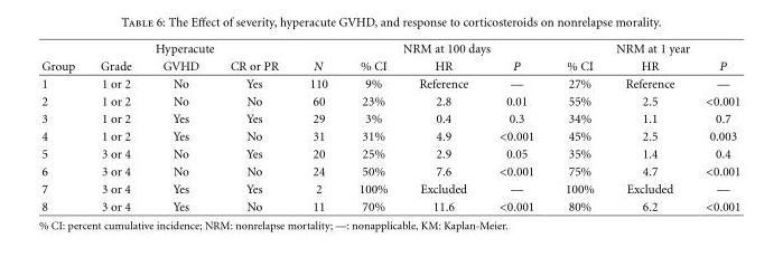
<table><thead><tr><td colspan="5">Hyperacute</td><td colspan="3">NRM at 100 days</td><td colspan="3">NRM at 1 year</td></tr><tr><td>Group</td><td>Grade</td><td>GVHD</td><td>CR or PR</td><td>N</td><td>% CI</td><td>HR</td><td>P</td><td>% CI</td><td>HR</td><td>P</td></tr></thead><tbody><tr><td>1</td><td>1 or 2</td><td>No</td><td>Yes</td><td>110</td><td>9%</td><td>Reference</td><td>—</td><td>27%</td><td>Reference</td><td>—</td></tr><tr><td>2</td><td>1 or 2</td><td>No</td><td>No</td><td>60</td><td>23%</td><td>2.8</td><td>0.01</td><td>55%</td><td>2.5</td><td>&lt;0.001</td></tr><tr><td>3</td><td>1 or 2</td><td>Yes</td><td>Yes</td><td>29</td><td>3%</td><td>0.4</td><td>0.3</td><td>34%</td><td>1.1</td><td>0.7</td></tr><tr><td>4</td><td>1 or 2</td><td>Yes</td><td>No</td><td>31</td><td>31%</td><td>4.9</td><td>&lt;0.001</td><td>45%</td><td>2.5</td><td>0.003</td></tr><tr><td>5</td><td>3 or 4</td><td>No</td><td>Yes</td><td>20</td><td>25%</td><td>2.9</td><td>0.05</td><td>35%</td><td>1.4</td><td>0.4</td></tr><tr><td>6</td><td>3 or 4</td><td>No</td><td>No</td><td>24</td><td>50%</td><td>7.6</td><td>&lt;0.001</td><td>75%</td><td>4.7</td><td>&lt;0.001</td></tr><tr><td>7</td><td>3 or 4</td><td>Yes</td><td>Yes</td><td>2</td><td>100%</td><td>Excluded</td><td>—</td><td>100%</td><td>Excluded</td><td>—</td></tr><tr><td>8</td><td>3 or 4</td><td>Yes</td><td>No</td><td>11</td><td>70%</td><td>11.6</td><td>&lt;0.001</td><td>80%</td><td>6.2</td><td>&lt;0.001</td></tr></tbody></table>